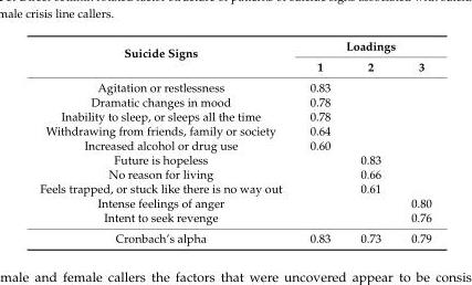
<table><thead><tr><td rowspan="2">Suicide Signs</td><td colspan="3">Loadings</td></tr><tr><td>1</td><td>2</td><td>3</td></tr></thead><tbody><tr><td>Agitation or restlessness</td><td>0.83</td><td></td><td></td></tr><tr><td>Dramatic changes in mood</td><td>0.78</td><td></td><td></td></tr><tr><td>Inability to sleep, or sleeps all the time</td><td>0.78</td><td></td><td></td></tr><tr><td>Withdrawing from friends, family or society</td><td>0.64</td><td></td><td></td></tr><tr><td>Increased alcohol or drug use</td><td>0.60</td><td></td><td></td></tr><tr><td>Future is hopeless</td><td></td><td>0.83</td><td></td></tr><tr><td>No reason for living</td><td></td><td>0.66</td><td></td></tr><tr><td>Feels trapped, or stuck like there is no way out</td><td></td><td>0.61</td><td></td></tr><tr><td>Intense feelings of anger</td><td></td><td></td><td>0.80</td></tr><tr><td>Intent to seek revenge</td><td></td><td></td><td>0.76</td></tr><tr><td>Cronbach’s alpha</td><td>0.83</td><td>0.73</td><td>0.79</td></tr></tbody></table>